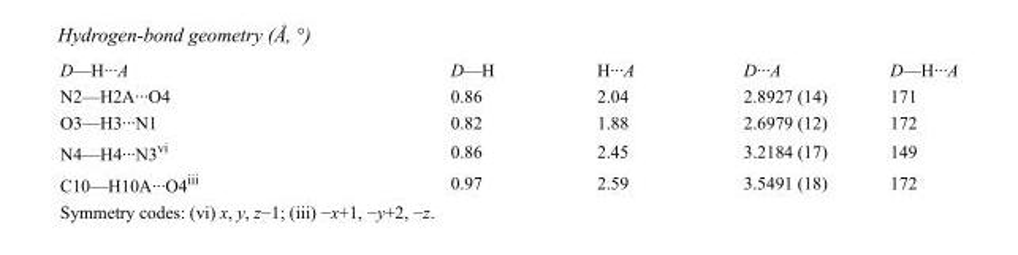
<table><tbody><tr><td>D—H···A</td><td>D—H</td><td>H···A</td><td>D···A</td><td>D—H···A</td></tr><tr><td>N2—H2A···O4</td><td>0.86</td><td>2.04</td><td>2.8927 (14)</td><td>171</td></tr><tr><td>O3—H3···N1</td><td>0.82</td><td>1.88</td><td>2.6979 (12)</td><td>172</td></tr><tr><td>N4—H4···N3<sup>vi</sup></td><td>0.86</td><td>2.45</td><td>3.2184 (17)</td><td>149</td></tr><tr><td>C10—H10A···O4<sup>iii</sup></td><td>0.97</td><td>2.59</td><td>3.5491 (18)</td><td>172</td></tr></tbody></table>